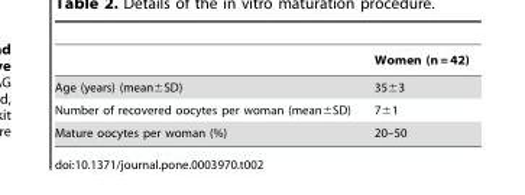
<table><thead><tr><td></td><td>Women (n = 42)</td></tr></thead><tbody><tr><td>Age (years) (mean±SD)</td><td>35±3</td></tr><tr><td>Number of recovered oocytes per woman (mean±SD)</td><td>7±1</td></tr><tr><td>Mature oocytes per woman (%)</td><td>20–50</td></tr></tbody></table>